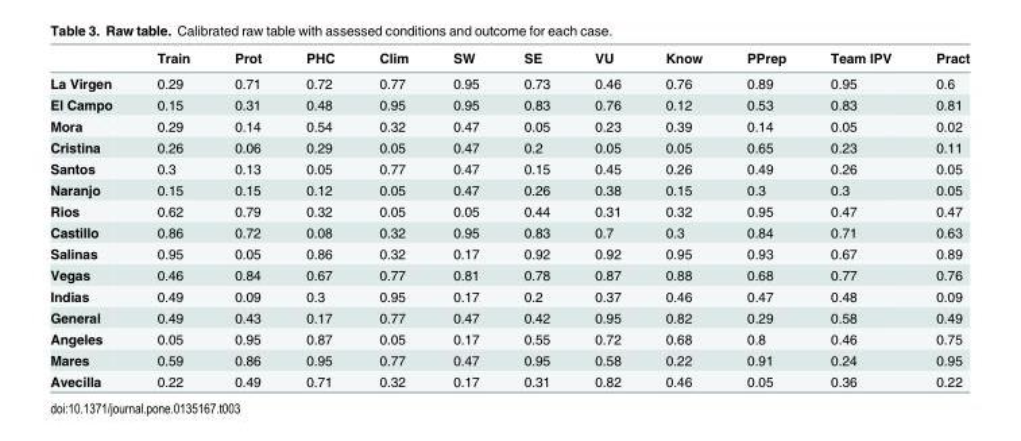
<table><thead><tr><td></td><td>Train</td><td>Prot</td><td>PHC</td><td>Clim</td><td>SW</td><td>SE</td><td>VU</td><td>Know</td><td>PPrep</td><td>Team IPV</td><td>Pract</td></tr></thead><tbody><tr><td>La Virgen</td><td>0.29</td><td>0.71</td><td>0.72</td><td>0.77</td><td>0.95</td><td>0.73</td><td>0.46</td><td>0.76</td><td>0.89</td><td>0.95</td><td>0.6</td></tr><tr><td>El Campo</td><td>0.15</td><td>0.31</td><td>0.48</td><td>0.95</td><td>0.95</td><td>0.83</td><td>0.76</td><td>0.12</td><td>0.53</td><td>0.83</td><td>0.81</td></tr><tr><td>Mora</td><td>0.29</td><td>0.14</td><td>0.54</td><td>0.32</td><td>0.47</td><td>0.05</td><td>0.23</td><td>0.39</td><td>0.14</td><td>0.05</td><td>0.02</td></tr><tr><td>Cristina</td><td>0.26</td><td>0.06</td><td>0.29</td><td>0.05</td><td>0.47</td><td>0.2</td><td>0.05</td><td>0.05</td><td>0.65</td><td>0.23</td><td>0.11</td></tr><tr><td>Santos</td><td>0.3</td><td>0.13</td><td>0.05</td><td>0.77</td><td>0.47</td><td>0.15</td><td>0.45</td><td>0.26</td><td>0.49</td><td>0.26</td><td>0.05</td></tr><tr><td>Naranjo</td><td>0.15</td><td>0.15</td><td>0.12</td><td>0.05</td><td>0.47</td><td>0.26</td><td>0.38</td><td>0.15</td><td>0.3</td><td>0.3</td><td>0.05</td></tr><tr><td>Rios</td><td>0.62</td><td>0.79</td><td>0.32</td><td>0.05</td><td>0.05</td><td>0.44</td><td>0.31</td><td>0.32</td><td>0.95</td><td>0.47</td><td>0.47</td></tr><tr><td>Castillo</td><td>0.86</td><td>0.72</td><td>0.08</td><td>0.32</td><td>0.95</td><td>0.83</td><td>0.7</td><td>0.3</td><td>0.84</td><td>0.71</td><td>0.63</td></tr><tr><td>Salinas</td><td>0.95</td><td>0.05</td><td>0.86</td><td>0.32</td><td>0.17</td><td>0.92</td><td>0.92</td><td>0.95</td><td>0.93</td><td>0.67</td><td>0.89</td></tr><tr><td>Vegas</td><td>0.46</td><td>0.84</td><td>0.67</td><td>0.77</td><td>0.81</td><td>0.78</td><td>0.87</td><td>0.88</td><td>0.68</td><td>0.77</td><td>0.76</td></tr><tr><td>Indias</td><td>0.49</td><td>0.09</td><td>0.3</td><td>0.95</td><td>0.17</td><td>0.2</td><td>0.37</td><td>0.46</td><td>0.47</td><td>0.48</td><td>0.09</td></tr><tr><td>General</td><td>0.49</td><td>0.43</td><td>0.17</td><td>0.77</td><td>0.47</td><td>0.42</td><td>0.95</td><td>0.82</td><td>0.29</td><td>0.58</td><td>0.49</td></tr><tr><td>Angeles</td><td>0.05</td><td>0.95</td><td>0.87</td><td>0.05</td><td>0.17</td><td>0.55</td><td>0.72</td><td>0.68</td><td>0.8</td><td>0.46</td><td>0.75</td></tr><tr><td>Mares</td><td>0.59</td><td>0.86</td><td>0.95</td><td>0.77</td><td>0.47</td><td>0.95</td><td>0.58</td><td>0.22</td><td>0.91</td><td>0.24</td><td>0.95</td></tr><tr><td>Avecilla</td><td>0.22</td><td>0.49</td><td>0.71</td><td>0.32</td><td>0.17</td><td>0.31</td><td>0.82</td><td>0.46</td><td>0.05</td><td>0.36</td><td>0.22</td></tr></tbody></table>